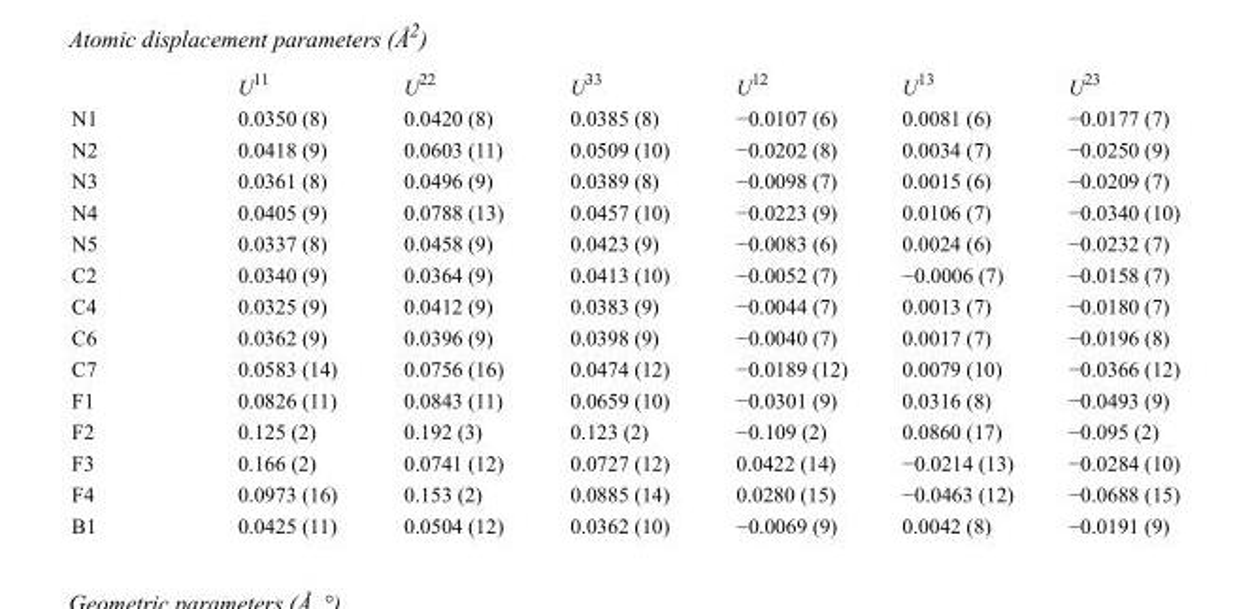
<table><thead><tr><td></td><td>U<sup>11</sup></td><td>U<sup>22</sup></td><td>U<sup>33</sup></td><td>U<sup>12</sup></td><td>U<sup>13</sup></td><td>U<sup>23</sup></td></tr></thead><tbody><tr><td>N1</td><td>0.0350 (8)</td><td>0.0420 (8)</td><td>0.0385 (8)</td><td>−0.0107 (6)</td><td>0.0081 (6)</td><td>−0.0177 (7)</td></tr><tr><td>N2</td><td>0.0418 (9)</td><td>0.0603 (11)</td><td>0.0509 (10)</td><td>−0.0202 (8)</td><td>0.0034 (7)</td><td>−0.0250 (9)</td></tr><tr><td>N3</td><td>0.0361 (8)</td><td>0.0496 (9)</td><td>0.0389 (8)</td><td>−0.0098 (7)</td><td>0.0015 (6)</td><td>−0.0209 (7)</td></tr><tr><td>N4</td><td>0.0405 (9)</td><td>0.0788 (13)</td><td>0.0457 (10)</td><td>−0.0223 (9)</td><td>0.0106 (7)</td><td>−0.0340 (10)</td></tr><tr><td>N5</td><td>0.0337 (8)</td><td>0.0458 (9)</td><td>0.0423 (9)</td><td>−0.0083 (6)</td><td>0.0024 (6)</td><td>−0.0232 (7)</td></tr><tr><td>C2</td><td>0.0340 (9)</td><td>0.0364 (9)</td><td>0.0413 (10)</td><td>−0.0052 (7)</td><td>−0.0006 (7)</td><td>−0.0158 (7)</td></tr><tr><td>C4</td><td>0.0325 (9)</td><td>0.0412 (9)</td><td>0.0383 (9)</td><td>−0.0044 (7)</td><td>0.0013 (7)</td><td>−0.0180 (7)</td></tr><tr><td>C6</td><td>0.0362 (9)</td><td>0.0396 (9)</td><td>0.0398 (9)</td><td>−0.0040 (7)</td><td>0.0017 (7)</td><td>−0.0196 (8)</td></tr><tr><td>C7</td><td>0.0583 (14)</td><td>0.0756 (16)</td><td>0.0474 (12)</td><td>−0.0189 (12)</td><td>0.0079 (10)</td><td>−0.0366 (12)</td></tr><tr><td>F1</td><td>0.0826 (11)</td><td>0.0843 (11)</td><td>0.0659 (10)</td><td>−0.0301 (9)</td><td>0.0316 (8)</td><td>−0.0493 (9)</td></tr><tr><td>F2</td><td>0.125 (2)</td><td>0.192 (3)</td><td>0.123 (2)</td><td>−0.109 (2)</td><td>0.0860 (17)</td><td>−0.095 (2)</td></tr><tr><td>F3</td><td>0.166 (2)</td><td>0.0741 (12)</td><td>0.0727 (12)</td><td>0.0422 (14)</td><td>−0.0214 (13)</td><td>−0.0284 (10)</td></tr><tr><td>F4</td><td>0.0973 (16)</td><td>0.153 (2)</td><td>0.0885 (14)</td><td>0.0280 (15)</td><td>−0.0463 (12)</td><td>−0.0688 (15)</td></tr><tr><td>B1</td><td>0.0425 (11)</td><td>0.0504 (12)</td><td>0.0362 (10)</td><td>−0.0069 (9)</td><td>0.0042 (8)</td><td>−0.0191 (9)</td></tr></tbody></table>